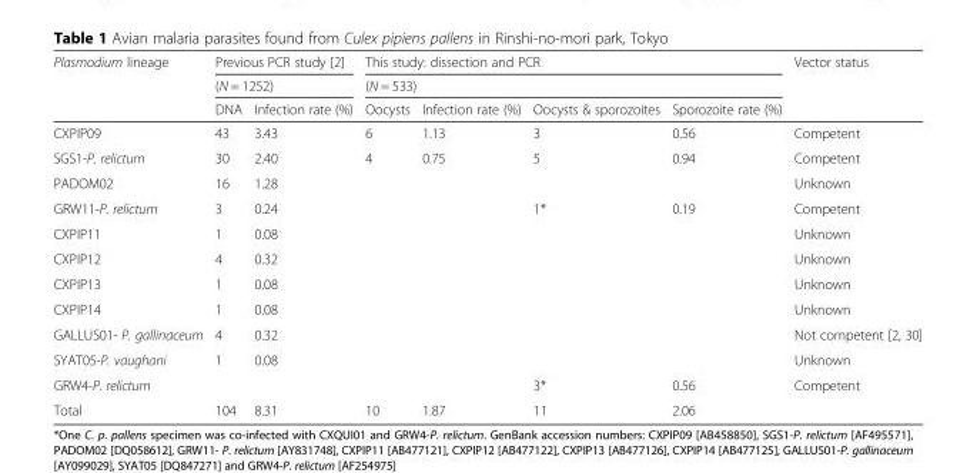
<table><thead><tr><td rowspan="3">Plasmodium lineage</td><td rowspan="2" colspan="2">Previous PCR study [2] (N = 1252)</td><td rowspan="2" colspan="4">This study: dissection and PCR (N = 533)</td><td rowspan="3">Vector status</td></tr><tr></tr><tr><td>DNA</td><td>Infection rate (%)</td><td>Oocysts</td><td>Infection rate (%)</td><td>Oocysts &amp; sporozoites</td><td>Sporozoite rate (%)</td></tr></thead><tbody><tr><td>CXPIP09</td><td>43</td><td>3.43</td><td>6</td><td>1.13</td><td>3</td><td>0.56</td><td>Competent</td></tr><tr><td>SGS1-P. relictum</td><td>30</td><td>2.40</td><td>4</td><td>0.75</td><td>5</td><td>0.94</td><td>Competent</td></tr><tr><td>PADOM02</td><td>16</td><td>1.28</td><td></td><td></td><td></td><td></td><td>Unknown</td></tr><tr><td>GRW11-P. relictum</td><td>3</td><td>0.24</td><td></td><td></td><td>1*</td><td>0.19</td><td>Competent</td></tr><tr><td>CXPIP11</td><td>1</td><td>0.08</td><td></td><td></td><td></td><td></td><td>Unknown</td></tr><tr><td>CXPIP12</td><td>4</td><td>0.32</td><td></td><td></td><td></td><td></td><td>Unknown</td></tr><tr><td>CXPIP13</td><td>1</td><td>0.08</td><td></td><td></td><td></td><td></td><td>Unknown</td></tr><tr><td>CXPIP14</td><td>1</td><td>0.08</td><td></td><td></td><td></td><td></td><td>Unknown</td></tr><tr><td>GALLUS01- P. gallinaceum</td><td>4</td><td>0.32</td><td></td><td></td><td></td><td></td><td>Not competent [2, 30]</td></tr><tr><td>SYAT05-P. vaughani</td><td>1</td><td>0.08</td><td></td><td></td><td></td><td></td><td>Unknown</td></tr><tr><td>GRW4-P. relictum</td><td></td><td></td><td></td><td></td><td>3*</td><td>0.56</td><td>Competent</td></tr><tr><td>Total</td><td>104</td><td>8.31</td><td>10</td><td>1.87</td><td>11</td><td>2.06</td><td></td></tr></tbody></table>